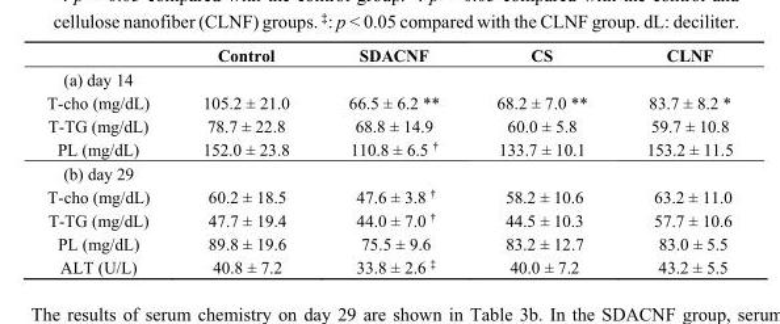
<table><thead><tr><td></td><td>Control</td><td>SDACNF</td><td>CS</td><td>CLNF</td></tr></thead><tbody><tr><td colspan="5">(a) day 14</td></tr><tr><td>T-cho (mg/dL)</td><td>105.2 ± 21.0</td><td>66.5 ± 6.2 **</td><td>68.2 ± 7.0 **</td><td>83.7 ± 8.2 *</td></tr><tr><td>T-TG (mg/dL)</td><td>78.7 ± 22.8</td><td>68.8 ± 14.9</td><td>60.0 ± 5.8</td><td>59.7 ± 10.8</td></tr><tr><td>PL (mg/dL)</td><td>152.0 ± 23.8</td><td>110.8 ± 6.5 <sup>†</sup></td><td>133.7 ± 10.1</td><td>153.2 ± 11.5</td></tr><tr><td colspan="5">(b) day 29</td></tr><tr><td>T-cho (mg/dL)</td><td>60.2 ± 18.5</td><td>47.6 ± 3.8 <sup>†</sup></td><td>58.2 ± 10.6</td><td>63.2 ± 11.0</td></tr><tr><td>T-TG (mg/dL)</td><td>47.7 ± 19.4</td><td>44.0 ± 7.0 <sup>†</sup></td><td>44.5 ± 10.3</td><td>57.7 ± 10.6</td></tr><tr><td>PL (mg/dL)</td><td>89.8 ± 19.6</td><td>75.5 ± 9.6</td><td>83.2 ± 12.7</td><td>83.0 ± 5.5</td></tr><tr><td>ALT (U/L)</td><td>40.8 ± 7.2</td><td>33.8 ± 2.6 <sup>‡</sup></td><td>40.0 ± 7.2</td><td>43.2 ± 5.5</td></tr></tbody></table>